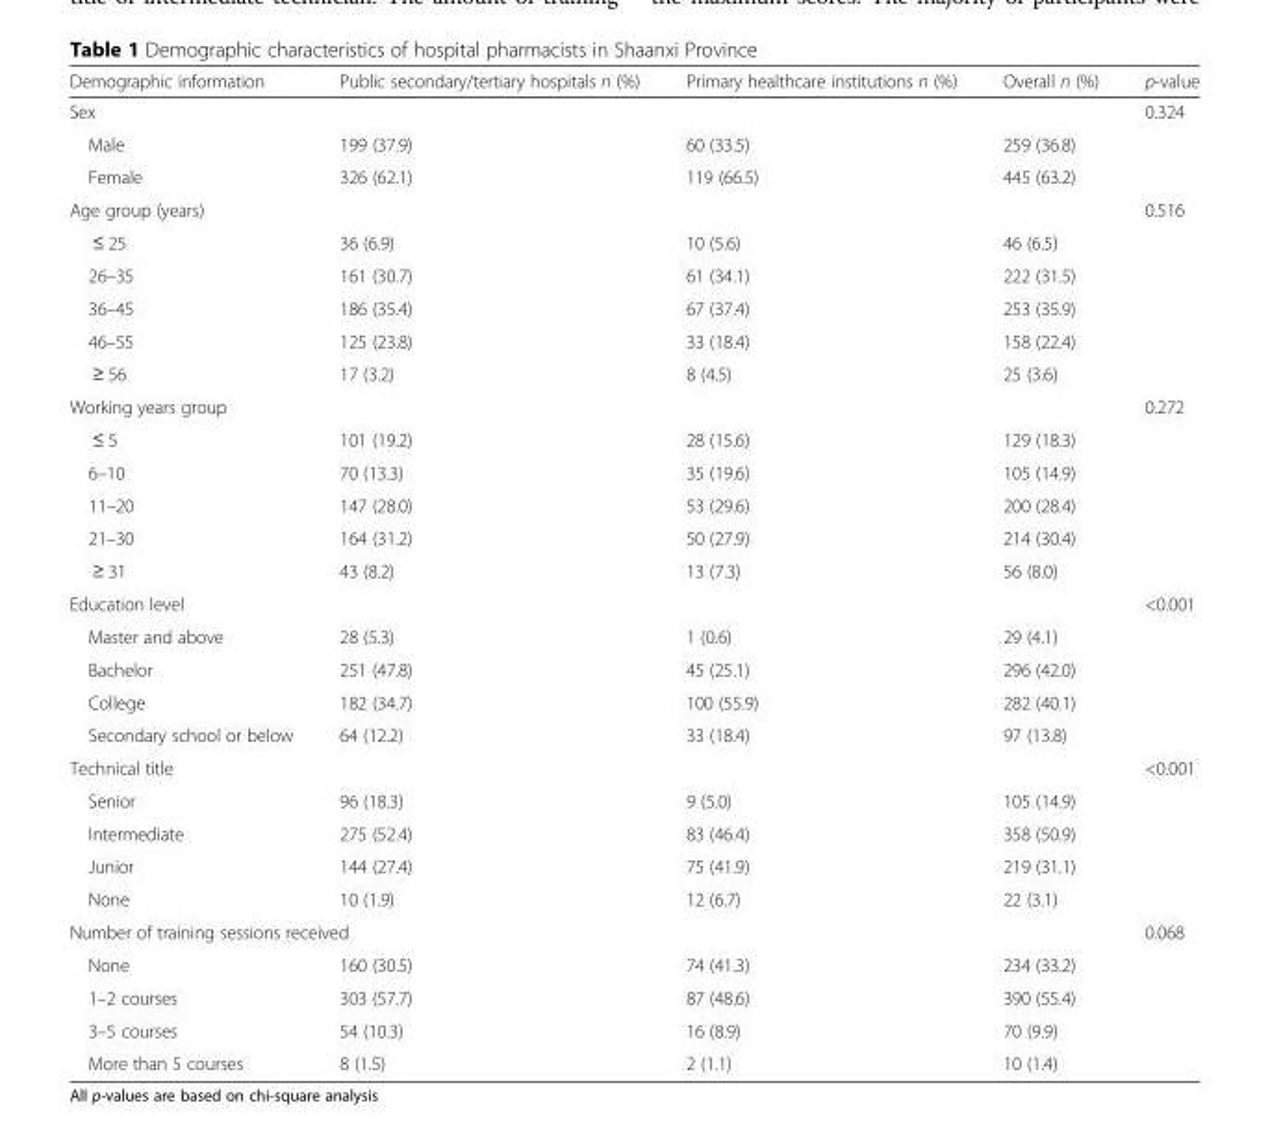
<table><thead><tr><td>Demographic information</td><td>Public secondary/tertiary hospitals n (%)</td><td>Primary healthcare institutions n (%)</td><td>Overall n (%)</td><td>p-value</td></tr></thead><tbody><tr><td>Sex</td><td></td><td></td><td></td><td>0.324</td></tr><tr><td>Male</td><td>199 (37.9)</td><td>60 (33.5)</td><td>259 (36.8)</td><td></td></tr><tr><td>Female</td><td>326 (62.1)</td><td>119 (66.5)</td><td>445 (63.2)</td><td></td></tr><tr><td>Age group (years)</td><td></td><td></td><td></td><td>0.516</td></tr><tr><td>≤ 25</td><td>36 (6.9)</td><td>10 (5.6)</td><td>46 (6.5)</td><td></td></tr><tr><td>26–35</td><td>161 (30.7)</td><td>61 (34.1)</td><td>222 (31.5)</td><td></td></tr><tr><td>36–45</td><td>186 (35.4)</td><td>67 (37.4)</td><td>253 (35.9)</td><td></td></tr><tr><td>46–55</td><td>125 (23.8)</td><td>33 (18.4)</td><td>158 (22.4)</td><td></td></tr><tr><td>≥ 56</td><td>17 (3.2)</td><td>8 (4.5)</td><td>25 (3.6)</td><td></td></tr><tr><td>Working years group</td><td></td><td></td><td></td><td>0.272</td></tr><tr><td>≤ 5</td><td>101 (19.2)</td><td>28 (15.6)</td><td>129 (18.3)</td><td></td></tr><tr><td>6–10</td><td>70 (13.3)</td><td>35 (19.6)</td><td>105 (14.9)</td><td></td></tr><tr><td>11–20</td><td>147 (28.0)</td><td>53 (29.6)</td><td>200 (28.4)</td><td></td></tr><tr><td>21–30</td><td>164 (31.2)</td><td>50 (27.9)</td><td>214 (30.4)</td><td></td></tr><tr><td>≥ 31</td><td>43 (8.2)</td><td>13 (7.3)</td><td>56 (8.0)</td><td></td></tr><tr><td>Education level</td><td></td><td></td><td></td><td>&lt;0.001</td></tr><tr><td>Master and above</td><td>28 (5.3)</td><td>1 (0.6)</td><td>29 (4.1)</td><td></td></tr><tr><td>Bachelor</td><td>251 (47.8)</td><td>45 (25.1)</td><td>296 (42.0)</td><td></td></tr><tr><td>College</td><td>182 (34.7)</td><td>100 (55.9)</td><td>282 (40.1)</td><td></td></tr><tr><td>Secondary school or below</td><td>64 (12.2)</td><td>33 (18.4)</td><td>97 (13.8)</td><td></td></tr><tr><td>Technical title</td><td></td><td></td><td></td><td>&lt;0.001</td></tr><tr><td>Senior</td><td>96 (18.3)</td><td>9 (5.0)</td><td>105 (14.9)</td><td></td></tr><tr><td>Intermediate</td><td>275 (52.4)</td><td>83 (46.4)</td><td>358 (50.9)</td><td></td></tr><tr><td>Junior</td><td>144 (27.4)</td><td>75 (41.9)</td><td>219 (31.1)</td><td></td></tr><tr><td>None</td><td>10 (1.9)</td><td>12 (6.7)</td><td>22 (3.1)</td><td></td></tr><tr><td colspan="2">Number of training sessions received</td><td></td><td></td><td>0.068</td></tr><tr><td>None</td><td>160 (30.5)</td><td>74 (41.3)</td><td>234 (33.2)</td><td></td></tr><tr><td>1–2 courses</td><td>303 (57.7)</td><td>87 (48.6)</td><td>390 (55.4)</td><td></td></tr><tr><td>3–5 courses</td><td>54 (10.3)</td><td>16 (8.9)</td><td>70 (9.9)</td><td></td></tr><tr><td>More than 5 courses</td><td>8 (1.5)</td><td>2 (1.1)</td><td>10 (1.4)</td><td></td></tr></tbody></table>